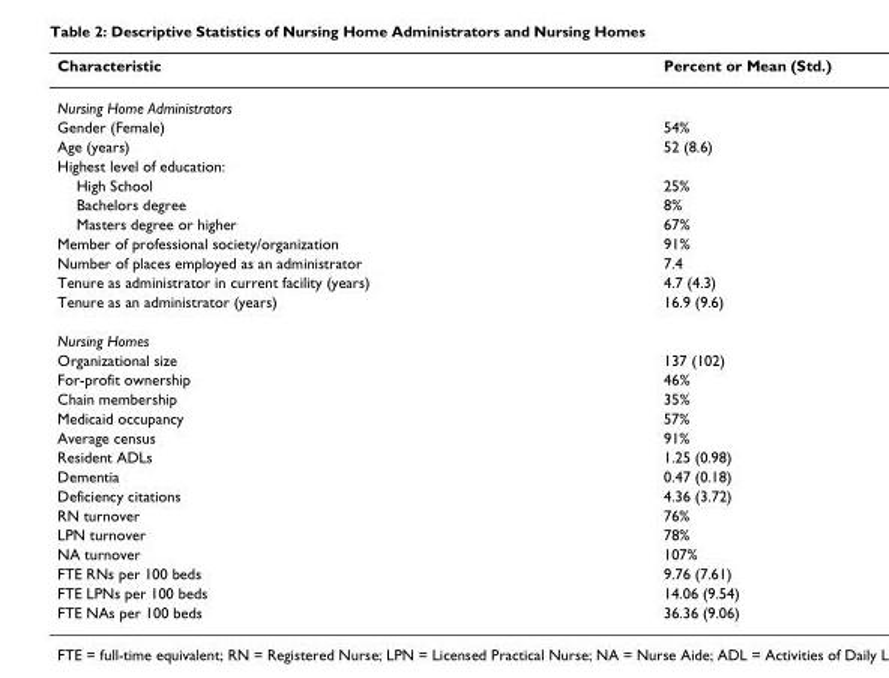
<table><thead><tr><td>Characteristic</td><td>Percent or Mean (Std.)</td></tr></thead><tbody><tr><td colspan="2">Nursing Home Administrators</td></tr><tr><td>Gender (Female)</td><td>54%</td></tr><tr><td>Age (years)</td><td>52 (8.6)</td></tr><tr><td colspan="2">Highest level of education:</td></tr><tr><td>High School</td><td>25%</td></tr><tr><td>Bachelors degree</td><td>8%</td></tr><tr><td>Masters degree or higher</td><td>67%</td></tr><tr><td>Member of professional society/organization</td><td>91%</td></tr><tr><td>Number of places employed as an administrator</td><td>7.4</td></tr><tr><td>Tenure as administrator in current facility (years)</td><td>4.7 (4.3)</td></tr><tr><td>Tenure as an administrator (years)</td><td>16.9 (9.6)</td></tr><tr><td colspan="2">Nursing Homes</td></tr><tr><td>Organizational size</td><td>137 (102)</td></tr><tr><td>For-profit ownership</td><td>46%</td></tr><tr><td>Chain membership</td><td>35%</td></tr><tr><td>Medicaid occupancy</td><td>57%</td></tr><tr><td>Average census</td><td>91%</td></tr><tr><td>Resident ADLs</td><td>1.25 (0.98)</td></tr><tr><td>Dementia</td><td>0.47 (0.18)</td></tr><tr><td>Deficiency citations</td><td>4.36 (3.72)</td></tr><tr><td>RN turnover</td><td>76%</td></tr><tr><td>LPN turnover</td><td>78%</td></tr><tr><td>NA turnover</td><td>107%</td></tr><tr><td>FTE RNs per 100 beds</td><td>9.76 (7.61)</td></tr><tr><td>FTE LPNs per 100 beds</td><td>14.06 (9.54)</td></tr><tr><td>FTE NAs per 100 beds</td><td>36.36 (9.06)</td></tr></tbody></table>